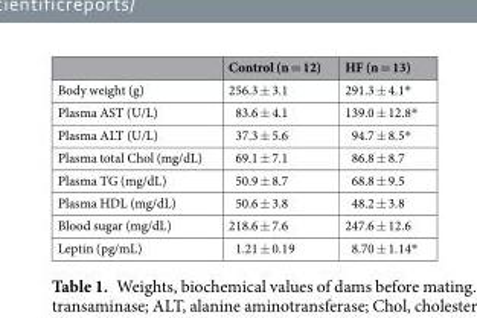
<table><thead><tr><td></td><td>Control (n = 12)</td><td>HF (n = 13)</td></tr></thead><tbody><tr><td>Body weight (g)</td><td>256.3 ± 3.1</td><td>291.3 ± 4.1*</td></tr><tr><td>Plasma AST (U/L)</td><td>83.6 ± 4.1</td><td>139.0 ± 12.8*</td></tr><tr><td>Plasma ALT (U/L)</td><td>37.3 ± 5.6</td><td>94.7 ± 8.5*</td></tr><tr><td>Plasma total Chol (mg/dL)</td><td>69.1 ± 7.1</td><td>86.8 ± 8.7</td></tr><tr><td>Plasma TG (mg/dL)</td><td>50.9 ± 8.7</td><td>68.8 ± 9.5</td></tr><tr><td>Plasma HDL (mg/dL)</td><td>50.6 ± 3.8</td><td>48.2 ± 3.8</td></tr><tr><td>Blood sugar (mg/dL)</td><td>218.6 ± 7.6</td><td>247.6 ± 12.6</td></tr><tr><td>Leptin (pg/mL)</td><td>1.21 ± 0.19</td><td>8.70 ± 1.14*</td></tr></tbody></table>